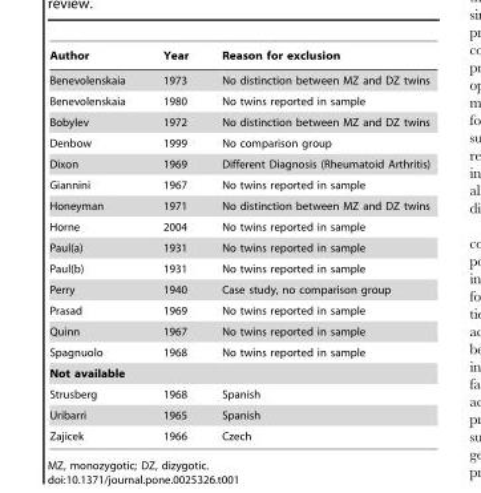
<table><thead><tr><td>Author</td><td>Year</td><td>Reason for exclusion</td></tr></thead><tbody><tr><td>Benevolenskaia</td><td>1973</td><td>No distinction between MZ and DZ twins</td></tr><tr><td>Benevolenskaia</td><td>1980</td><td>No twins reported in sample</td></tr><tr><td>Bobylev</td><td>1972</td><td>No distinction between MZ and DZ twins</td></tr><tr><td>Denbow</td><td>1999</td><td>No comparison group</td></tr><tr><td>Dixon</td><td>1969</td><td>Different Diagnosis (Rheumatoid Arthritis)</td></tr><tr><td>Giannini</td><td>1967</td><td>No twins reported in sample</td></tr><tr><td>Honeyman</td><td>1971</td><td>No distinction between MZ and DZ twins</td></tr><tr><td>Horne</td><td>2004</td><td>No twins reported in sample</td></tr><tr><td>Paul(a)</td><td>1931</td><td>No twins reported in sample</td></tr><tr><td>Paul(b)</td><td>1931</td><td>No twins reported in sample</td></tr><tr><td>Perry</td><td>1940</td><td>Case study, no comparison group</td></tr><tr><td>Prasad</td><td>1969</td><td>No twins reported in sample</td></tr><tr><td>Quinn</td><td>1967</td><td>No twins reported in sample</td></tr><tr><td>Spagnuolo</td><td>1968</td><td>No twins reported in sample</td></tr><tr><td colspan="3">Not available</td></tr><tr><td>Strusberg</td><td>1968</td><td>Spanish</td></tr><tr><td>Uribarri</td><td>1965</td><td>Spanish</td></tr><tr><td>Zajicek</td><td>1966</td><td>Czech</td></tr></tbody></table>